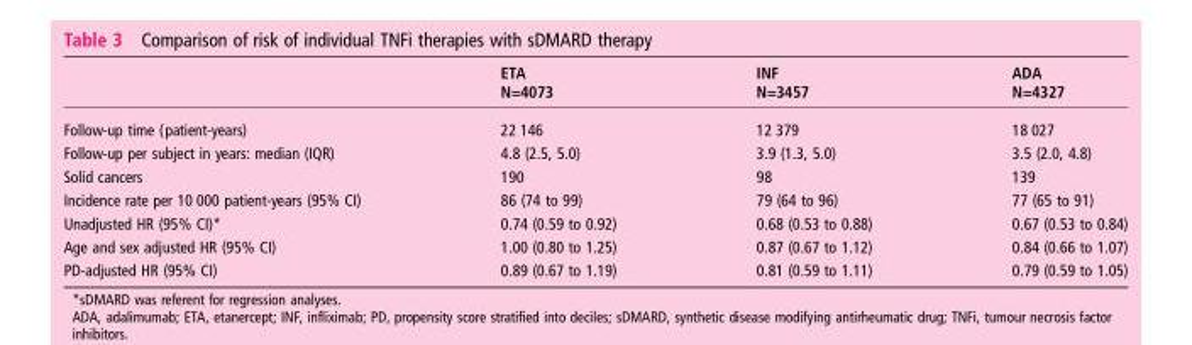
<table><thead><tr><td rowspan="2"></td><td rowspan="2">ETA N=4073</td><td rowspan="2">INF N=3457</td><td rowspan="2">ADA N=4327</td></tr><tr></tr></thead><tbody><tr><td>Follow-up time (patient-years)</td><td>22 146</td><td>12 379</td><td>18 027</td></tr><tr><td>Follow-up per subject in years: median (IQR)</td><td>4.8 (2.5, 5.0)</td><td>3.9 (1.3, 5.0)</td><td>3.5 (2.0, 4.8)</td></tr><tr><td>Solid cancers</td><td>190</td><td>98</td><td>139</td></tr><tr><td>Incidence rate per 10 000 patient-years (95% CI)</td><td>86 (74 to 99)</td><td>79 (64 to 96)</td><td>77 (65 to 91)</td></tr><tr><td>Unadjusted HR (95% CI)*</td><td>0.74 (0.59 to 0.92)</td><td>0.68 (0.53 to 0.88)</td><td>0.67 (0.53 to 0.84)</td></tr><tr><td>Age and sex adjusted HR (95% CI)</td><td>1.00 (0.80 to 1.25)</td><td>0.87 (0.67 to 1.12)</td><td>0.84 (0.66 to 1.07)</td></tr><tr><td>PD-adjusted HR (95% CI)</td><td>0.89 (0.67 to 1.19)</td><td>0.81 (0.59 to 1.11)</td><td>0.79 (0.59 to 1.05)</td></tr></tbody></table>